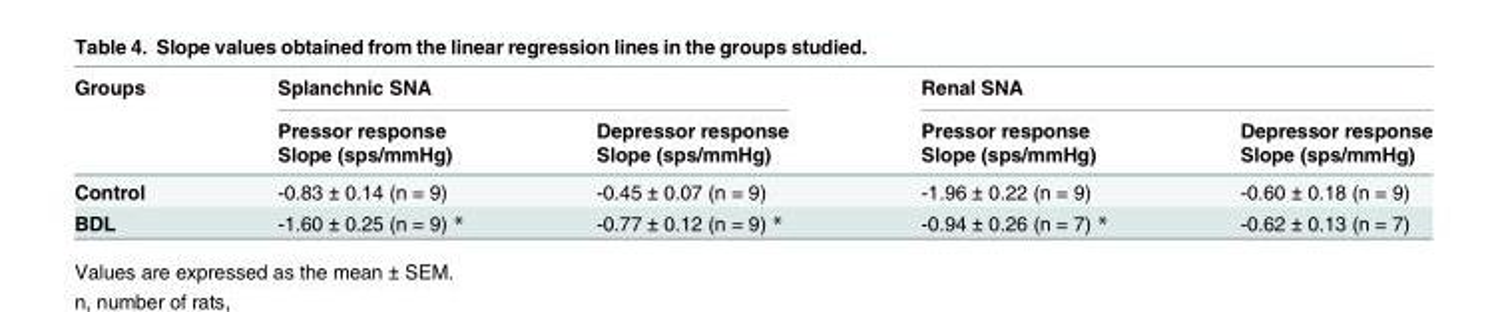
<table><thead><tr><td rowspan="3">Groups</td><td colspan="2">Splanchnic SNA</td><td colspan="2">Renal SNA</td></tr><tr><td rowspan="2">Pressor response Slope (sps/mmHg)</td><td rowspan="2">Depressor response Slope (sps/mmHg)</td><td rowspan="2">Pressor response Slope (sps/mmHg)</td><td rowspan="2">Depressor response Slope (sps/mmHg)</td></tr><tr></tr></thead><tbody><tr><td>Control</td><td>-0.83 ± 0.14 (n = 9)</td><td>-0.45 ± 0.07 (n = 9)</td><td>-1.96 ± 0.22 (n = 9)</td><td>-0.60 ± 0.18 (n = 9)</td></tr><tr><td>BDL</td><td>-1.60 ± 0.25 (n = 9) *</td><td>-0.77 ± 0.12 (n = 9) *</td><td>-0.94 ± 0.26 (n = 7) *</td><td>-0.62 ± 0.13 (n = 7)</td></tr></tbody></table>